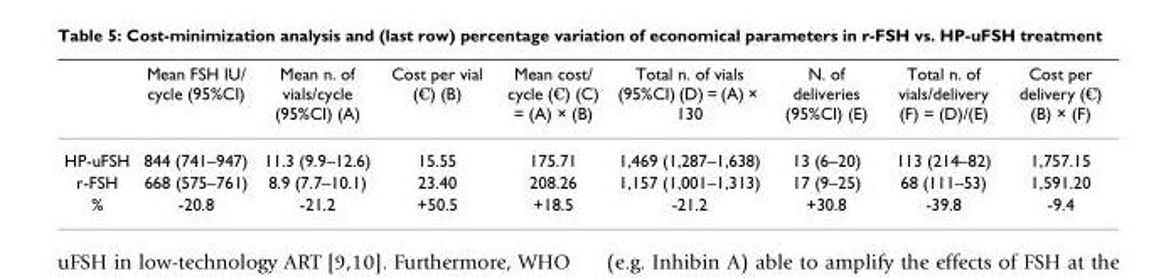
<table><thead><tr><td></td><td>Mean FSH IU/ cycle (95%CI)</td><td>Mean n. of vials/cycle (95%CI) (A)</td><td>Cost per vial (€) (B)</td><td>Mean cost/ cycle (€) (C) = (A) × (B)</td><td>Total n. of vials (95%CI) (D) = (A) × 130</td><td>N. of deliveries (95%CI) (E)</td><td>Total n. of vials/delivery (F) = (D)/(E)</td><td>Cost per delivery (€) (B) × (F)</td></tr></thead><tbody><tr><td>HP-uFSH</td><td>844 (741–947)</td><td>11.3 (9.9–12.6)</td><td>15.55</td><td>175.71</td><td>1,469 (1,287–1,638)</td><td>13 (6–20)</td><td>113 (214–82)</td><td>1,757.15</td></tr><tr><td>r-FSH</td><td>668 (575–761)</td><td>8.9 (7.7–10.1)</td><td>23.40</td><td>208.26</td><td>1,157 (1,001–1,313)</td><td>17 (9–25)</td><td>68 (111–53)</td><td>1,591.20</td></tr><tr><td>%</td><td>-20.8</td><td>-21.2</td><td>+50.5</td><td>+18.5</td><td>-21.2</td><td>+30.8</td><td>-39.8</td><td>-9.4</td></tr></tbody></table>